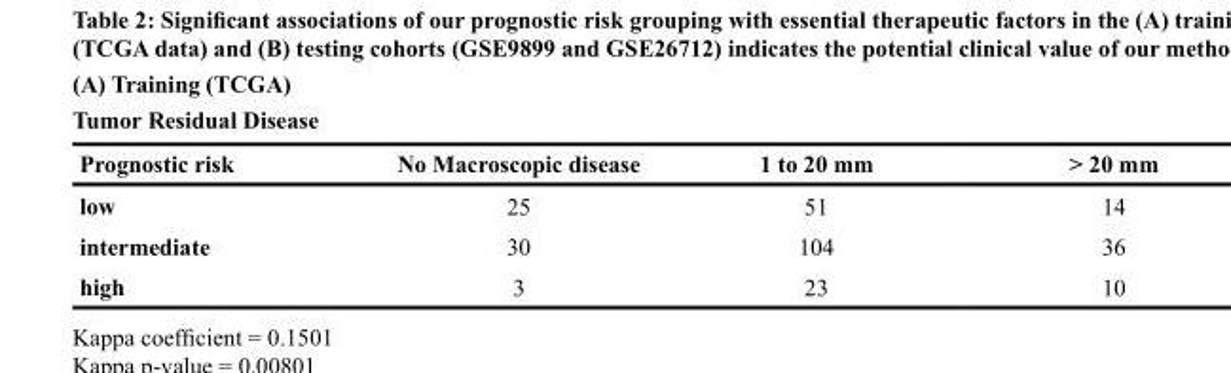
<table><thead><tr><td rowspan="2" colspan="4">(A) Training (TCGA) Tumor Residual Disease</td></tr><tr></tr><tr><td>Prognostic risk</td><td>No Macroscopic disease</td><td>1 to 20 mm</td><td>&gt; 20 mm</td></tr></thead><tbody><tr><td>low</td><td>25</td><td>51</td><td>14</td></tr><tr><td>intermediate</td><td>30</td><td>104</td><td>36</td></tr><tr><td>high</td><td>3</td><td>23</td><td>10</td></tr></tbody></table>